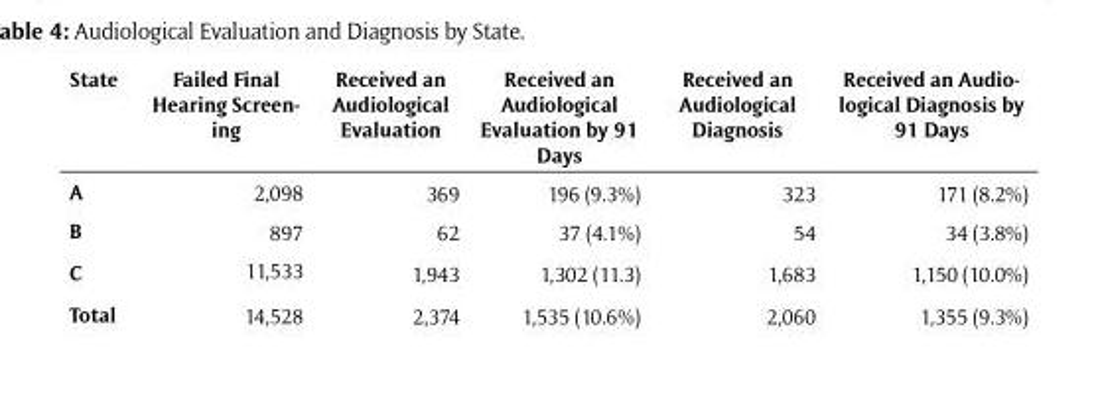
<table><thead><tr><td>State</td><td>Failed Final Hearing Screen- ing</td><td>Received an Audiological Evaluation</td><td>Received an Audiological Evaluation by 91 Days</td><td>Received an Audiological Diagnosis</td><td>Received an Audio- logical Diagnosis by 91 Days</td></tr></thead><tbody><tr><td>A</td><td>2,098</td><td>369</td><td>196 (9.3%)</td><td>323</td><td>171 (8.2%)</td></tr><tr><td>B</td><td>897</td><td>62</td><td>37 (4.1%)</td><td>54</td><td>34 (3.8%)</td></tr><tr><td>C</td><td>11,533</td><td>1,943</td><td>1,302 (11.3)</td><td>1,683</td><td>1,150 (10.0%)</td></tr><tr><td>Total</td><td>14,528</td><td>2,374</td><td>1,535 (10.6%)</td><td>2,060</td><td>1,355 (9.3%)</td></tr></tbody></table>